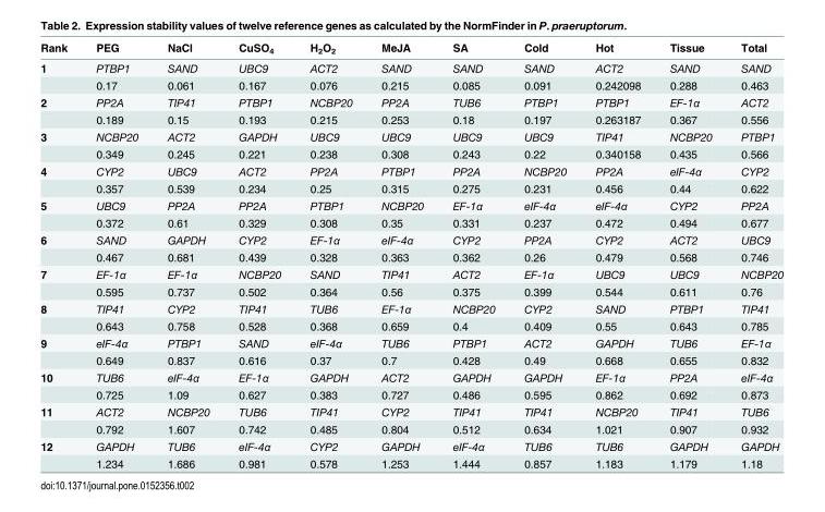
<table><thead><tr><td>Rank</td><td>PEG</td><td>NaCl</td><td>CuSO<sub>4</sub></td><td>H<sub>2</sub>O<sub>2</sub></td><td>MeJA</td><td>SA</td><td>Cold</td><td>Hot</td><td>Tissue</td><td>Total</td></tr></thead><tbody><tr><td rowspan="2">1</td><td>PTBP1</td><td>SAND</td><td>UBC9</td><td>ACT2</td><td>SAND</td><td>SAND</td><td>SAND</td><td>ACT2</td><td>SAND</td><td>SAND</td></tr><tr><td>0.17</td><td>0.061</td><td>0.167</td><td>0.076</td><td>0.215</td><td>0.085</td><td>0.091</td><td>0.242098</td><td>0.288</td><td>0.463</td></tr><tr><td rowspan="2">2</td><td>PP2A</td><td>TIP41</td><td>PTBP1</td><td>NCBP20</td><td>PP2A</td><td>TUB6</td><td>PTBP1</td><td>PTBP1</td><td>EF-1α</td><td>ACT2</td></tr><tr><td>0.189</td><td>0.15</td><td>0.193</td><td>0.215</td><td>0.253</td><td>0.18</td><td>0.197</td><td>0.263187</td><td>0.367</td><td>0.556</td></tr><tr><td rowspan="2">3</td><td>NCBP20</td><td>ACT2</td><td>GAPDH</td><td>UBC9</td><td>UBC9</td><td>UBC9</td><td>UBC9</td><td>TIP41</td><td>NCBP20</td><td>PTBP1</td></tr><tr><td>0.349</td><td>0.245</td><td>0.221</td><td>0.238</td><td>0.308</td><td>0.243</td><td>0.22</td><td>0.340158</td><td>0.435</td><td>0.566</td></tr><tr><td rowspan="2">4</td><td>CYP2</td><td>UBC9</td><td>ACT2</td><td>PP2A</td><td>PTBP1</td><td>PP2A</td><td>NCBP20</td><td>PP2A</td><td>eIF-4α</td><td>CYP2</td></tr><tr><td>0.357</td><td>0.539</td><td>0.234</td><td>0.25</td><td>0.315</td><td>0.275</td><td>0.231</td><td>0.456</td><td>0.44</td><td>0.622</td></tr><tr><td rowspan="2">5</td><td>UBC9</td><td>PP2A</td><td>PP2A</td><td>PTBP1</td><td>NCBP20</td><td>EF-1α</td><td>eIF-4α</td><td>eIF-4α</td><td>CYP2</td><td>PP2A</td></tr><tr><td>0.372</td><td>0.61</td><td>0.329</td><td>0.308</td><td>0.35</td><td>0.331</td><td>0.237</td><td>0.472</td><td>0.494</td><td>0.677</td></tr><tr><td rowspan="2">6</td><td>SAND</td><td>GAPDH</td><td>CYP2</td><td>EF-1α</td><td>eIF-4α</td><td>CYP2</td><td>PP2A</td><td>CYP2</td><td>ACT2</td><td>UBC9</td></tr><tr><td>0.467</td><td>0.681</td><td>0.439</td><td>0.328</td><td>0.363</td><td>0.362</td><td>0.26</td><td>0.479</td><td>0.568</td><td>0.746</td></tr><tr><td rowspan="2">7</td><td>EF-1α</td><td>EF-1α</td><td>NCBP20</td><td>SAND</td><td>TIP41</td><td>ACT2</td><td>EF-1α</td><td>UBC9</td><td>UBC9</td><td>NCBP20</td></tr><tr><td>0.595</td><td>0.737</td><td>0.502</td><td>0.364</td><td>0.56</td><td>0.375</td><td>0.399</td><td>0.544</td><td>0.611</td><td>0.76</td></tr><tr><td rowspan="2">8</td><td>TIP41</td><td>CYP2</td><td>TIP41</td><td>TUB6</td><td>EF-1α</td><td>NCBP20</td><td>CYP2</td><td>SAND</td><td>PTBP1</td><td>TIP41</td></tr><tr><td>0.643</td><td>0.758</td><td>0.528</td><td>0.368</td><td>0.659</td><td>0.4</td><td>0.409</td><td>0.55</td><td>0.643</td><td>0.785</td></tr><tr><td rowspan="2">9</td><td>eIF-4α</td><td>PTBP1</td><td>SAND</td><td>eIF-4α</td><td>TUB6</td><td>PTBP1</td><td>ACT2</td><td>GAPDH</td><td>TUB6</td><td>EF-1α</td></tr><tr><td>0.649</td><td>0.837</td><td>0.616</td><td>0.37</td><td>0.7</td><td>0.428</td><td>0.49</td><td>0.668</td><td>0.655</td><td>0.832</td></tr><tr><td rowspan="2">10</td><td>TUB6</td><td>eIF-4α</td><td>EF-1α</td><td>GAPDH</td><td>ACT2</td><td>GAPDH</td><td>GAPDH</td><td>EF-1α</td><td>PP2A</td><td>eIF-4α</td></tr><tr><td>0.725</td><td>1.09</td><td>0.627</td><td>0.383</td><td>0.727</td><td>0.486</td><td>0.595</td><td>0.862</td><td>0.692</td><td>0.873</td></tr><tr><td rowspan="2">11</td><td>ACT2</td><td>NCBP20</td><td>TUB6</td><td>TIP41</td><td>CYP2</td><td>TIP41</td><td>TIP41</td><td>NCBP20</td><td>TIP41</td><td>TUB6</td></tr><tr><td>0.792</td><td>1.607</td><td>0.742</td><td>0.485</td><td>0.804</td><td>0.512</td><td>0.634</td><td>1.021</td><td>0.907</td><td>0.932</td></tr><tr><td rowspan="2">12</td><td>GAPDH</td><td>TUB6</td><td>eIF-4α</td><td>CYP2</td><td>GAPDH</td><td>eIF-4α</td><td>TUB6</td><td>TUB6</td><td>GAPDH</td><td>GAPDH</td></tr><tr><td>1.234</td><td>1.686</td><td>0.981</td><td>0.578</td><td>1.253</td><td>1.444</td><td>0.857</td><td>1.183</td><td>1.179</td><td>1.18</td></tr></tbody></table>